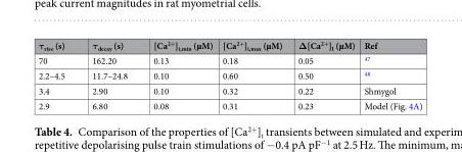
<table><thead><tr><td>τ<sub>rise</sub> (s)</td><td>τ<sub>decay</sub> (s)</td><td>[Ca<sup>2+</sup>]<sub>i,min</sub> (µM)</td><td>[Ca<sup>2+</sup>]<sub>i,max</sub> (µM)</td><td>Δ[Ca<sup>2+</sup>]<sub>I</sub> (µM)</td><td>Ref</td></tr></thead><tbody><tr><td>70</td><td>162.20</td><td>0.13</td><td>0.18</td><td>0.05</td><td><sup>47</sup></td></tr><tr><td>2.2–4.5</td><td>11.7–24.8</td><td>0.10</td><td>0.60</td><td>0.50</td><td><sup>48</sup></td></tr><tr><td>3.4</td><td>2.90</td><td>0.10</td><td>0.32</td><td>0.22</td><td>Shmygol</td></tr><tr><td>2.9</td><td>6.80</td><td>0.08</td><td>0.31</td><td>0.23</td><td>Model (Fig. 4A)</td></tr></tbody></table>